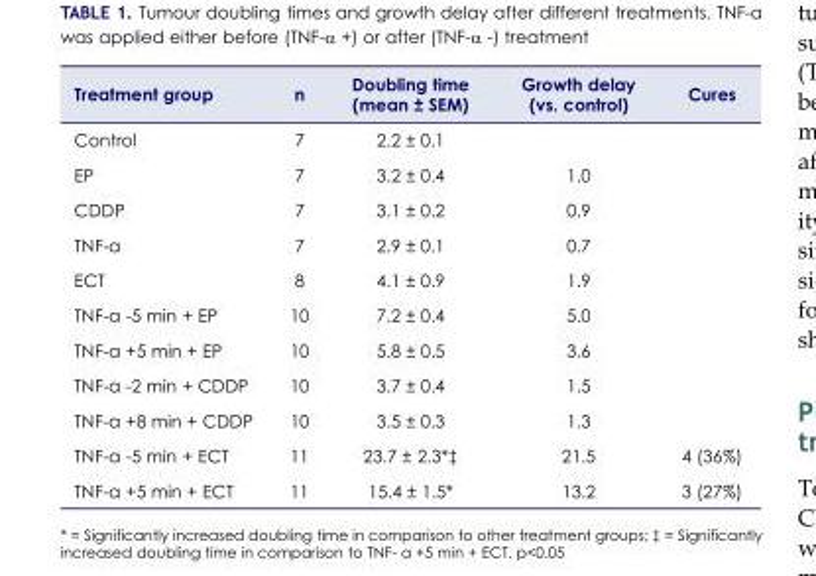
<table><thead><tr><td>Treatment group</td><td>n</td><td>Doubling time (mean ± SEM)</td><td>Growth delay (vs. control)</td><td>Cures</td></tr></thead><tbody><tr><td>Control</td><td>7</td><td>2.2 ± 0.1</td><td></td><td></td></tr><tr><td>EP</td><td>7</td><td>3.2 ± 0.4</td><td>1.0</td><td></td></tr><tr><td>CDDP</td><td>7</td><td>3.1 ± 0.2</td><td>0.9</td><td></td></tr><tr><td>TNF-α</td><td>7</td><td>2.9 ± 0.1</td><td>0.7</td><td></td></tr><tr><td>ECT</td><td>8</td><td>4.1 ± 0.9</td><td>1.9</td><td></td></tr><tr><td>TNF-α -5 min + EP</td><td>10</td><td>7.2 ± 0.4</td><td>5.0</td><td></td></tr><tr><td>TNF-α +5 min + EP</td><td>10</td><td>5.8 ± 0.5</td><td>3.6</td><td></td></tr><tr><td>TNF-α -2 min + CDDP</td><td>10</td><td>3.7 ± 0.4</td><td>1.5</td><td></td></tr><tr><td>TNF-α +8 min + CDDP</td><td>10</td><td>3.5 ± 0.3</td><td>1.3</td><td></td></tr><tr><td>TNF-α -5 min + ECT</td><td>11</td><td>23.7 ± 2.3<sup>*‡</sup></td><td>21.5</td><td>4 (36%)</td></tr><tr><td>TNF-α +5 min + ECT</td><td>11</td><td>15.4 ± 1.5*</td><td>13.2</td><td>3 (27%)</td></tr></tbody></table>